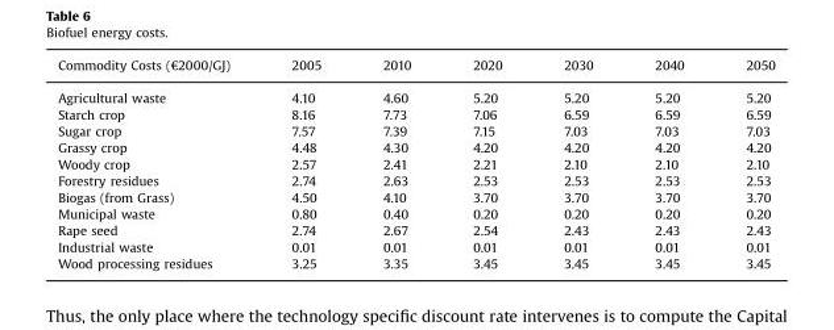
<table><thead><tr><td>Commodity Costs (€2000/GJ)</td><td>2005</td><td>2010</td><td>2020</td><td>2030</td><td>2040</td><td>2050</td></tr></thead><tbody><tr><td>Agricultural waste</td><td>4.10</td><td>4.60</td><td>5.20</td><td>5.20</td><td>5.20</td><td>5.20</td></tr><tr><td>Starch crop</td><td>8.16</td><td>7.73</td><td>7.06</td><td>6.59</td><td>6.59</td><td>6.59</td></tr><tr><td>Sugar crop</td><td>7.57</td><td>7.39</td><td>7.15</td><td>7.03</td><td>7.03</td><td>7.03</td></tr><tr><td>Grassy crop</td><td>4.48</td><td>4.30</td><td>4.20</td><td>4.20</td><td>4.20</td><td>4.20</td></tr><tr><td>Woody crop</td><td>2.57</td><td>2.41</td><td>2.21</td><td>2.10</td><td>2.10</td><td>2.10</td></tr><tr><td>Forestry residues</td><td>2.74</td><td>2.63</td><td>2.53</td><td>2.53</td><td>2.53</td><td>2.53</td></tr><tr><td>Biogas (from Grass)</td><td>4.50</td><td>4.10</td><td>3.70</td><td>3.70</td><td>3.70</td><td>3.70</td></tr><tr><td>Municipal waste</td><td>0.80</td><td>0.40</td><td>0.20</td><td>0.20</td><td>0.20</td><td>0.20</td></tr><tr><td>Rape seed</td><td>2.74</td><td>2.67</td><td>2.54</td><td>2.43</td><td>2.43</td><td>2.43</td></tr><tr><td>Industrial waste</td><td>0.01</td><td>0.01</td><td>0.01</td><td>0.01</td><td>0.01</td><td>0.01</td></tr><tr><td>Wood processing residues</td><td>3.25</td><td>3.35</td><td>3.45</td><td>3.45</td><td>3.45</td><td>3.45</td></tr></tbody></table>